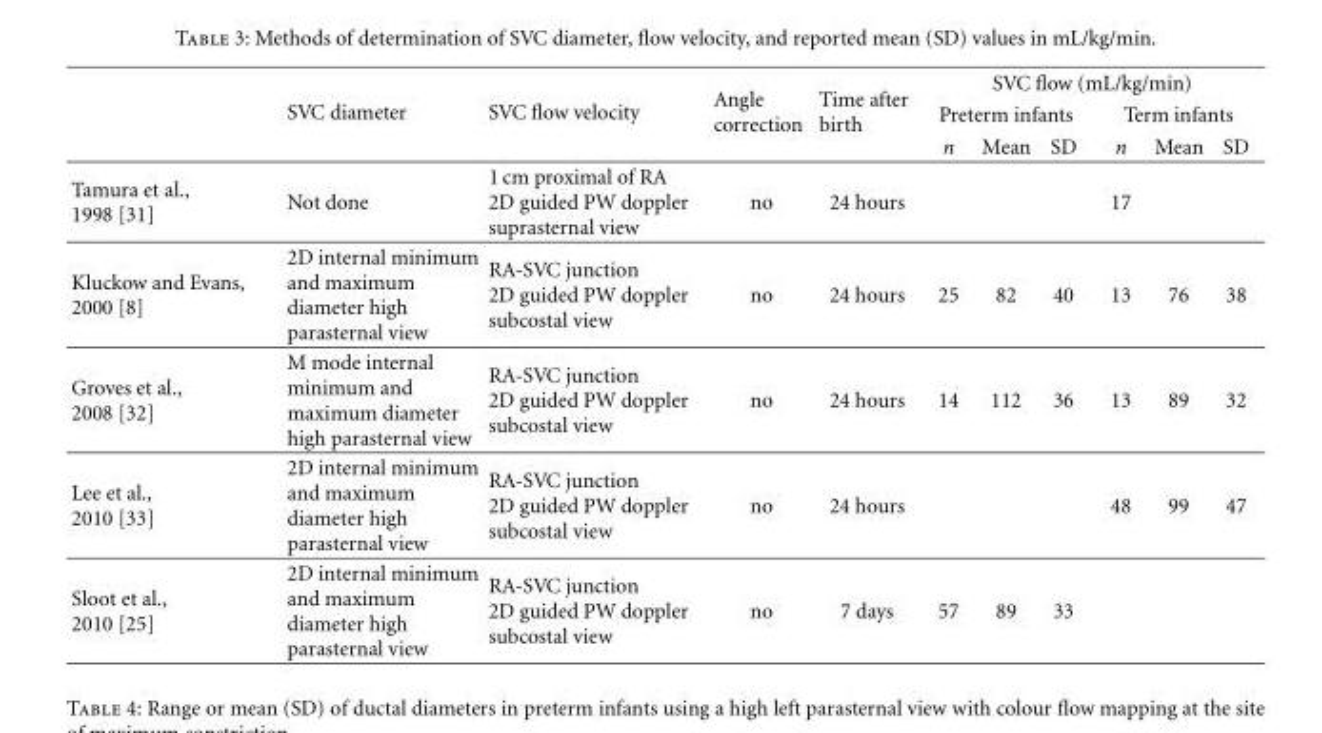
<table><thead><tr><td rowspan="3"></td><td rowspan="3">SVC diameter</td><td rowspan="3">SVC flow velocity</td><td rowspan="3">Angle correction</td><td rowspan="3">Time after birth</td><td colspan="6">SVC flow (mL/kg/min)</td></tr><tr><td colspan="3">Preterm infants</td><td colspan="3">Term infants</td></tr><tr><td>n</td><td>Mean</td><td>SD</td><td>n</td><td>Mean</td><td>SD</td></tr></thead><tbody><tr><td>Tamura et al., 1998 [31]</td><td>Not done</td><td>1 cm proximal of RA 2D guided PW doppler suprasternal view</td><td>no</td><td>24 hours</td><td></td><td></td><td></td><td>17</td><td></td><td></td></tr><tr><td>Kluckow and Evans, 2000 [8]</td><td>2D internal minimum and maximum diameter high parasternal view</td><td>RA-SVC junction 2D guided PW doppler subcostal view</td><td>no</td><td>24 hours</td><td>25</td><td>82</td><td>40</td><td>13</td><td>76</td><td>38</td></tr><tr><td>Groves et al., 2008 [32]</td><td>M mode internal minimum and maximum diameter high parasternal view</td><td>RA-SVC junction 2D guided PW doppler subcostal view</td><td>no</td><td>24 hours</td><td>14</td><td>112</td><td>36</td><td>13</td><td>89</td><td>32</td></tr><tr><td>Lee et al., 2010 [33]</td><td>2D internal minimum and maximum diameter high parasternal view</td><td>RA-SVC junction 2D guided PW doppler subcostal view</td><td>no</td><td>24 hours</td><td></td><td></td><td></td><td>48</td><td>99</td><td>47</td></tr><tr><td>Sloot et al., 2010 [25]</td><td>2D internal minimum and maximum diameter high parasternal view</td><td>RA-SVC junction 2D guided PW doppler subcostal view</td><td>no</td><td>7 days</td><td>57</td><td>89</td><td>33</td><td></td><td></td><td></td></tr></tbody></table>